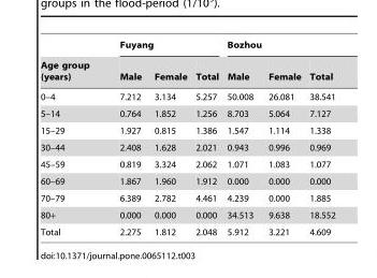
<table><thead><tr><td rowspan="2">Age group (years)</td><td colspan="3">Fuyang</td><td colspan="3">Bozhou</td></tr><tr><td>Male</td><td>Female</td><td>Total</td><td>Male</td><td>Female</td><td>Total</td></tr></thead><tbody><tr><td>0–4</td><td>7.212</td><td>3.134</td><td>5.257</td><td>50.008</td><td>26.081</td><td>38.541</td></tr><tr><td>5–14</td><td>0.764</td><td>1.852</td><td>1.256</td><td>8.703</td><td>5.064</td><td>7.127</td></tr><tr><td>15–29</td><td>1.927</td><td>0.815</td><td>1.386</td><td>1.547</td><td>1.114</td><td>1.338</td></tr><tr><td>30–44</td><td>2.408</td><td>1.628</td><td>2.021</td><td>0.943</td><td>0.996</td><td>0.969</td></tr><tr><td>45–59</td><td>0.819</td><td>3.324</td><td>2.062</td><td>1.071</td><td>1.083</td><td>1.077</td></tr><tr><td>60–69</td><td>1.867</td><td>1.960</td><td>1.912</td><td>0.000</td><td>0.000</td><td>0.000</td></tr><tr><td>70–79</td><td>6.389</td><td>2.782</td><td>4.461</td><td>4.239</td><td>0.000</td><td>1.885</td></tr><tr><td>80+</td><td>0.000</td><td>0.000</td><td>0.000</td><td>34.513</td><td>9.638</td><td>18.552</td></tr><tr><td>Total</td><td>2.275</td><td>1.812</td><td>2.048</td><td>5.912</td><td>3.221</td><td>4.609</td></tr></tbody></table>